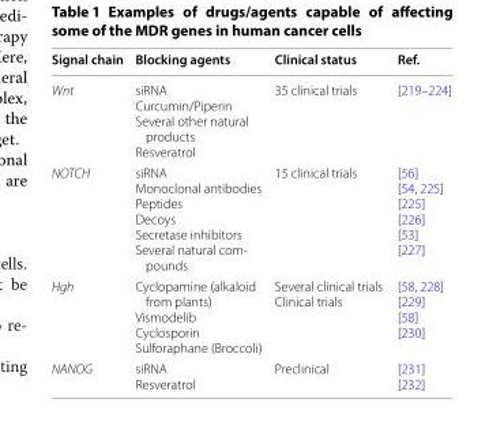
<table><thead><tr><td>Signal chain</td><td>Blocking agents</td><td>Clinical status</td><td>Ref.</td></tr></thead><tbody><tr><td>Wnt</td><td>siRNA Curcumin/Piperin Several other natural products Resveratrol</td><td>35 clinical trials</td><td>[219–224]</td></tr><tr><td>NOTCH</td><td>siRNA Monoclonal antibodies Peptides Decoys Secretase inhibitors Several natural com- pounds</td><td>15 clinical trials</td><td>[56] [54, 225] [225] [226] [53] [227]</td></tr><tr><td>Hgh</td><td>Cyclopamine (alkaloid from plants) Vismodelib Cyclosporin Sulforaphane (Broccoli)</td><td>Several clinical trials Clinical trials</td><td>[58, 228] [229] [58] [230]</td></tr><tr><td>NANOG</td><td>siRNA Resveratrol</td><td>Preclinical</td><td>[231] [232]</td></tr></tbody></table>